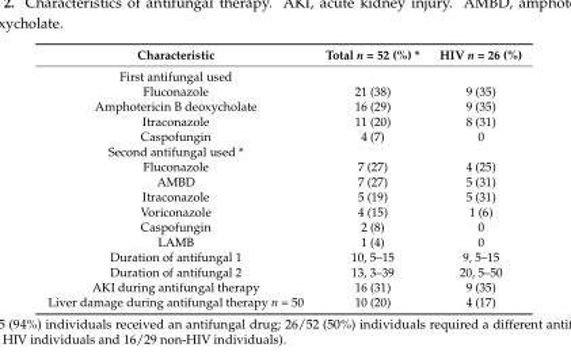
<table><thead><tr><td>Characteristic</td><td>Total n = 52 (%) *</td><td>HIV n = 26 (%)</td></tr></thead><tbody><tr><td colspan="3">First antifungal used</td></tr><tr><td>Fluconazole</td><td>21 (38)</td><td>9 (35)</td></tr><tr><td>Amphotericin B deoxycholate</td><td>16 (29)</td><td>9 (35)</td></tr><tr><td>Itraconazole</td><td>11 (20)</td><td>8 (31)</td></tr><tr><td>Caspofungin</td><td>4 (7)</td><td>0</td></tr><tr><td colspan="3">Second antifungal used *</td></tr><tr><td>Fluconazole</td><td>7 (27)</td><td>4 (25)</td></tr><tr><td>AMBD</td><td>7 (27)</td><td>5 (31)</td></tr><tr><td>Itraconazole</td><td>5 (19)</td><td>5 (31)</td></tr><tr><td>Voriconazole</td><td>4 (15)</td><td>1 (6)</td></tr><tr><td>Caspofungin</td><td>2 (8)</td><td>0</td></tr><tr><td>LAMB</td><td>1 (4)</td><td>0</td></tr><tr><td>Duration of antifungal 1</td><td>10, 5–15</td><td>9, 5–15</td></tr><tr><td>Duration of antifungal 2</td><td>13, 3–39</td><td>20, 5–50</td></tr><tr><td>AKI during antifungal therapy</td><td>16 (31)</td><td>9 (35)</td></tr><tr><td>Liver damage during antifungal therapy n = 50</td><td>10 (20)</td><td>4 (17)</td></tr></tbody></table>